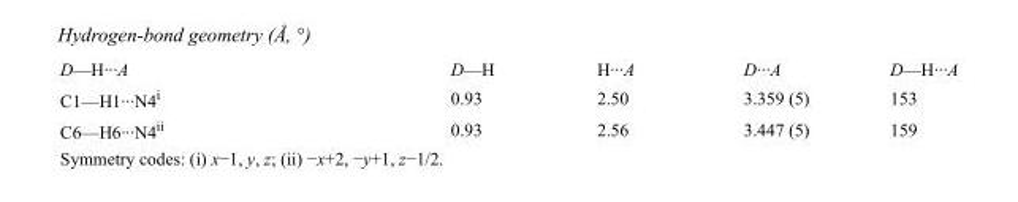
<table><tbody><tr><td>D—H···A</td><td>D—H</td><td>H···A</td><td>D···A</td><td>D—H···A</td></tr><tr><td>C1—H1···N4<sup>i</sup></td><td>0.93</td><td>2.50</td><td>3.359 (5)</td><td>153</td></tr><tr><td>C6—H6···N4<sup>ii</sup></td><td>0.93</td><td>2.56</td><td>3.447 (5)</td><td>159</td></tr></tbody></table>